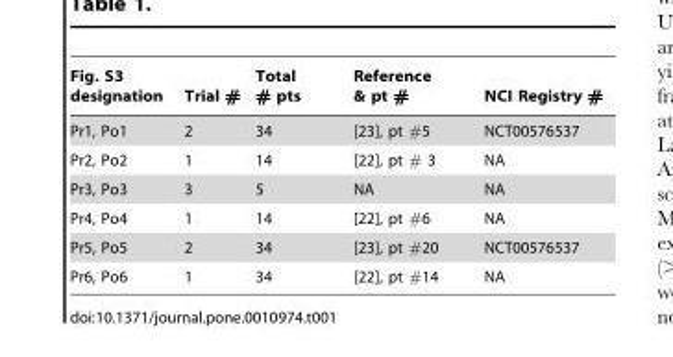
<table><thead><tr><td>Fig. S3 designation</td><td>Trial #</td><td>Total # pts</td><td>Reference &amp; pt #</td><td>NCI Registry #</td></tr></thead><tbody><tr><td>Pr1, Po1</td><td>2</td><td>34</td><td>[23], pt #5</td><td>NCT00576537</td></tr><tr><td>Pr2, Po2</td><td>1</td><td>14</td><td>[22], pt # 3</td><td>NA</td></tr><tr><td>Pr3, Po3</td><td>3</td><td>5</td><td>NA</td><td>NA</td></tr><tr><td>Pr4, Po4</td><td>1</td><td>14</td><td>[22], pt #6</td><td>NA</td></tr><tr><td>Pr5, Po5</td><td>2</td><td>34</td><td>[23], pt #20</td><td>NCT00576537</td></tr><tr><td>Pr6, Po6</td><td>1</td><td>34</td><td>[22], pt #14</td><td>NA</td></tr></tbody></table>